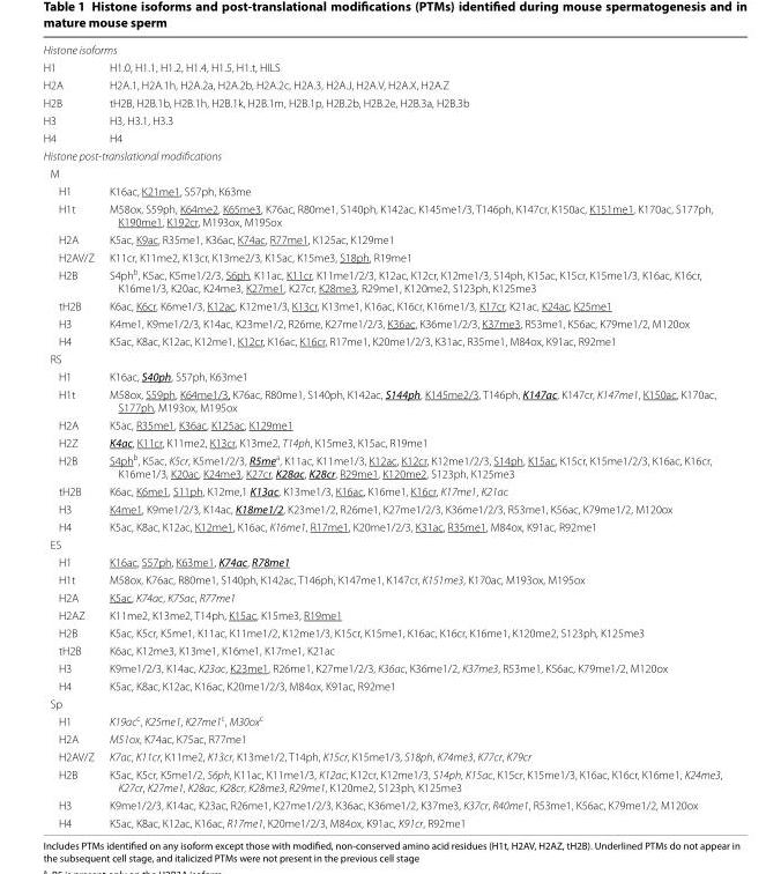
<table><tbody><tr><td colspan="2">Histone isoforms</td></tr><tr><td>H1</td><td>H1.0, H1.1, H1.2, H1.4, H1.5, H1.t, HILS</td></tr><tr><td>H2A</td><td>H2A.1, H2A.1h, H2A.2a, H2A.2b, H2A.2c, H2A.3, H2A.J, H2A.V, H2A.X, H2A.Z</td></tr><tr><td>H2B</td><td>tH2B, H2B.1b, H2B.1h, H2B.1k, H2B.1m, H2B.1p, H2B.2b, H2B.2e, H2B.3a, H2B.3b</td></tr><tr><td>H3</td><td>H3, H3.1, H3.3</td></tr><tr><td>H4</td><td>H4</td></tr><tr><td colspan="2">Histone post-translational modifications</td></tr><tr><td colspan="2">M</td></tr><tr><td>H1</td><td>K16ac, K21me1, S57ph, K63me</td></tr><tr><td>H1t</td><td>M58ox, S59ph, K64me2, K65me3, K76ac, R80me1, S140ph, K142ac, K145me1/3, T146ph, K147cr, K150ac, K151me1, K170ac, S177ph, K190me1, K192cr, M193ox, M195ox</td></tr><tr><td>H2A</td><td>K5ac, K9ac, R35me1, K36ac, K74ac, R77me1, K125ac, K129me1</td></tr><tr><td>H2AV/Z</td><td>K11cr, K11me2, K13cr, K13me2/3, K15ac, K15me3, S18ph, R19me1</td></tr><tr><td>H2B</td><td>S4ph<sup>b</sup>, K5ac, K5me1/2/3, S6ph, K11ac, K11cr, K11me1/2/3, K12ac, K12cr, K12me1/3, S14ph, K15ac, K15cr, K15me1/3, K16ac, K16cr, K16me1/3, K20ac, K24me3, K27me1, K27cr, K28me3, R29me1, K120me2, S123ph, K125me3</td></tr><tr><td>tH2B</td><td>K6ac, K6cr, K6me1/3, K12ac, K12me1/3, K13cr, K13me1, K16ac, K16cr, K16me1/3, K17cr, K21ac, K24ac, K25me1</td></tr><tr><td>H3</td><td>K4me1, K9me1/2/3, K14ac, K23me1/2, R26me, K27me1/2/3, K36ac, K36me1/2/3, K37me3, R53me1, K56ac, K79me1/2, M120ox</td></tr><tr><td>H4</td><td>K5ac, K8ac, K12ac, K12me1, K12cr, K16ac, K16cr, R17me1, K20me1/2/3, K31ac, R35me1, M84ox, K91ac, R92me1</td></tr><tr><td colspan="2">RS</td></tr><tr><td>H1</td><td>K16ac, S40ph, S57ph, K63me1</td></tr><tr><td>H1t</td><td>M58ox, S59ph, K64me1/3, K76ac, R80me1, S140ph, K142ac, S144ph, K145me2/3, T146ph, K147ac, K147cr, K147me1, K150ac, K170ac, S177ph, M193ox, M195ox</td></tr><tr><td>H2A</td><td>K5ac, R35me1, K36ac, K125ac, K129me1</td></tr><tr><td>H2Z</td><td>K4ac, K11cr, K11me2, K13cr, K13me2, T14ph, K15me3, K15ac, R19me1</td></tr><tr><td>H2B</td><td>S4ph<sup>b</sup>, K5ac, K5cr, K5me1/2/3, R5me<sup>a</sup>, K11ac, K11me1/3, K12ac, K12cr, K12me1/2/3, S14ph, K15ac, K15cr, K15me1/2/3, K16ac, K16cr, K16me1/3, K20ac, K24me3, K27cr, K28ac, K28cr, R29me1, K120me2, S123ph, K125me3</td></tr><tr><td>tH2B</td><td>K6ac, K6me1, S11ph, K12me,1 K13ac, K13me1/3, K16ac, K16me1, K16cr, K17me1, K21ac</td></tr><tr><td>H3</td><td>K4me1, K9me1/2/3, K14ac, K18me1/2, K23me1/2, R26me1, K27me1/2/3, K36me1/2/3, R53me1, K56ac, K79me1/2, M120ox</td></tr><tr><td>H4</td><td>K5ac, K8ac, K12ac, K12me1, K16ac, K16me1, R17me1, K20me1/2/3, K31ac, R35me1, M84ox, K91ac, R92me1</td></tr><tr><td colspan="2">ES</td></tr><tr><td>H1</td><td>K16ac, S57ph, K63me1, K74ac, R78me1</td></tr><tr><td>H1t</td><td>M58ox, K76ac, R80me1, S140ph, K142ac, T146ph, K147me1, K147cr, K151me3, K170ac, M193ox, M195ox</td></tr><tr><td>H2A</td><td>K5ac, K74ac, K75ac, R77me1</td></tr><tr><td>H2AZ</td><td>K11me2, K13me2, T14ph, K15ac, K15me3, R19me1</td></tr><tr><td>H2B</td><td>K5ac, K5cr, K5me1, K11ac, K11me1/2, K12me1/3, K15cr, K15me1, K16ac, K16cr, K16me1, K120me2, S123ph, K125me3</td></tr><tr><td>tH2B</td><td>K6ac, K12me3, K13me1, K16me1, K17me1, K21ac</td></tr><tr><td>H3</td><td>K9me1/2/3, K14ac, K23ac, K23me1, R26me1, K27me1/2/3, K36ac, K36me1/2, K37me3, R53me1, K56ac, K79me1/2, M120ox</td></tr><tr><td>H4</td><td>K5ac, K8ac, K12ac, K16ac, K20me1/2/3, M84ox, K91ac, R92me1</td></tr><tr><td colspan="2">Sp</td></tr><tr><td>H1</td><td>K19ac<sup>c</sup>, K25me1, K27me1<sup>c</sup>, M30ox<sup>c</sup></td></tr><tr><td>H2A</td><td>M51ox, K74ac, K75ac, R77me1</td></tr><tr><td>H2AV/Z</td><td>K7ac, K11cr, K11me2, K13cr, K13me1/2, T14ph, K15cr, K15me1/3, S18ph, K74me3, K77cr, K79cr</td></tr><tr><td>H2B</td><td>K5ac, K5cr, K5me1/2, S6ph, K11ac, K11me1/3, K12ac, K12cr, K12me1/3, S14ph, K15ac, K15cr, K15me1/3, K16ac, K16cr, K16me1, K24me3, K27cr, K27me1, K28ac, K28cr, K28me3, R29me1, K120me2, S123ph, K125me3</td></tr><tr><td>H3</td><td>K9me1/2/3, K14ac, K23ac, R26me1, K27me1/2/3, K36ac, K36me1/2, K37me3, K37cr, R40me1, R53me1, K56ac, K79me1/2, M120ox</td></tr><tr><td>H4</td><td>K5ac, K8ac, K12ac, K16ac, R17me1, K20me1/2/3, M84ox, K91ac, K91cr, R92me1</td></tr></tbody></table>